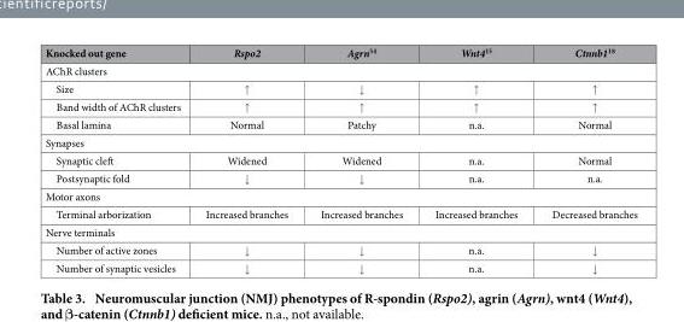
<table><thead><tr><td>Knocked out gene</td><td>Rspo2</td><td>Agrn<sup>54</sup></td><td>Wnt4<sup>15</sup></td><td>Ctnnb1<sup>18</sup></td></tr></thead><tbody><tr><td colspan="5">AChR clusters</td></tr><tr><td>Size</td><td>↑</td><td>↓</td><td>↑</td><td>↑</td></tr><tr><td>Band width of AChR clusters</td><td>↑</td><td>↑</td><td>↑</td><td>↑</td></tr><tr><td>Basal lamina</td><td>Normal</td><td>Patchy</td><td>n.a.</td><td>Normal</td></tr><tr><td colspan="5">Synapses</td></tr><tr><td>Synaptic cleft</td><td>Widened</td><td>Widened</td><td>n.a.</td><td>Normal</td></tr><tr><td>Postsynaptic fold</td><td>↓</td><td>↓</td><td>n.a.</td><td>n.a.</td></tr><tr><td colspan="5">Motor axons</td></tr><tr><td>Terminal arborization</td><td>Increased branches</td><td>Increased branches</td><td>Increased branches</td><td>Decreased branches</td></tr><tr><td colspan="5">Nerve terminals</td></tr><tr><td>Number of active zones</td><td>↓</td><td>↓</td><td>n.a.</td><td>↓</td></tr><tr><td>Number of synaptic vesicles</td><td>↓</td><td>↓</td><td>n.a.</td><td>↓</td></tr></tbody></table>